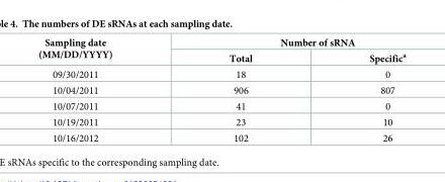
<table><thead><tr><td rowspan="2">Sampling date (MM/DD/YYYY)</td><td colspan="2">Number of sRNA</td></tr><tr><td>Total</td><td>Specific<sup>a</sup></td></tr></thead><tbody><tr><td>09/30/2011</td><td>18</td><td>0</td></tr><tr><td>10/04/2011</td><td>906</td><td>807</td></tr><tr><td>10/07/2011</td><td>41</td><td>0</td></tr><tr><td>10/19/2011</td><td>23</td><td>10</td></tr><tr><td>10/16/2012</td><td>102</td><td>26</td></tr></tbody></table>